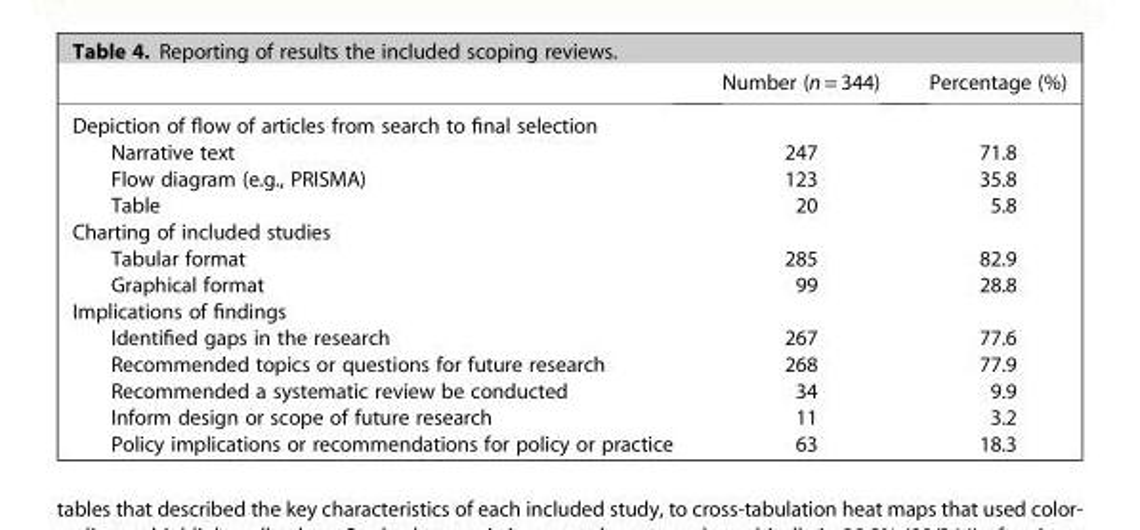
<table><thead><tr><td></td><td>Number (n = 344)</td><td>Percentage (%)</td></tr></thead><tbody><tr><td colspan="3">Depiction of flow of articles from search to final selection</td></tr><tr><td>Narrative text</td><td>247</td><td>71.8</td></tr><tr><td>Flow diagram (e.g., PRISMA)</td><td>123</td><td>35.8</td></tr><tr><td>Table</td><td>20</td><td>5.8</td></tr><tr><td colspan="3">Charting of included studies</td></tr><tr><td>Tabular format</td><td>285</td><td>82.9</td></tr><tr><td>Graphical format</td><td>99</td><td>28.8</td></tr><tr><td colspan="3">Implications of findings</td></tr><tr><td>Identified gaps in the research</td><td>267</td><td>77.6</td></tr><tr><td>Recommended topics or questions for future research</td><td>268</td><td>77.9</td></tr><tr><td>Recommended a systematic review be conducted</td><td>34</td><td>9.9</td></tr><tr><td>Inform design or scope of future research</td><td>11</td><td>3.2</td></tr><tr><td>Policy implications or recommendations for policy or practice</td><td>63</td><td>18.3</td></tr></tbody></table>